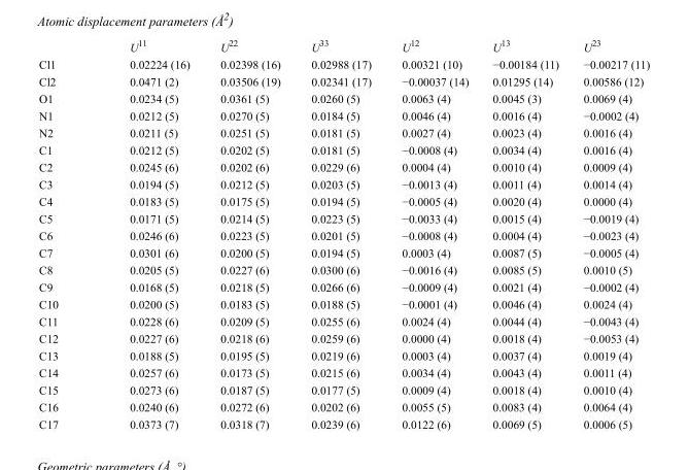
<table><thead><tr><td></td><td>U<sup>11</sup></td><td>U<sup>22</sup></td><td>U<sup>33</sup></td><td>U<sup>12</sup></td><td>U<sup>13</sup></td><td>U<sup>23</sup></td></tr></thead><tbody><tr><td>Cl1</td><td>0.02224 (16)</td><td>0.02398 (16)</td><td>0.02988 (17)</td><td>0.00321 (10)</td><td>−0.00184 (11)</td><td>−0.00217 (11)</td></tr><tr><td>Cl2</td><td>0.0471 (2)</td><td>0.03506 (19)</td><td>0.02341 (17)</td><td>−0.00037 (14)</td><td>0.01295 (14)</td><td>0.00586 (12)</td></tr><tr><td>O1</td><td>0.0234 (5)</td><td>0.0361 (5)</td><td>0.0260 (5)</td><td>0.0063 (4)</td><td>0.0045 (3)</td><td>0.0069 (4)</td></tr><tr><td>N1</td><td>0.0212 (5)</td><td>0.0270 (5)</td><td>0.0184 (5)</td><td>0.0046 (4)</td><td>0.0016 (4)</td><td>−0.0002 (4)</td></tr><tr><td>N2</td><td>0.0211 (5)</td><td>0.0251 (5)</td><td>0.0181 (5)</td><td>0.0027 (4)</td><td>0.0023 (4)</td><td>0.0016 (4)</td></tr><tr><td>C1</td><td>0.0212 (5)</td><td>0.0202 (5)</td><td>0.0181 (5)</td><td>−0.0008 (4)</td><td>0.0034 (4)</td><td>0.0016 (4)</td></tr><tr><td>C2</td><td>0.0245 (6)</td><td>0.0202 (6)</td><td>0.0229 (6)</td><td>0.0004 (4)</td><td>0.0010 (4)</td><td>0.0009 (4)</td></tr><tr><td>C3</td><td>0.0194 (5)</td><td>0.0212 (5)</td><td>0.0203 (5)</td><td>−0.0013 (4)</td><td>0.0011 (4)</td><td>0.0014 (4)</td></tr><tr><td>C4</td><td>0.0183 (5)</td><td>0.0175 (5)</td><td>0.0194 (5)</td><td>−0.0005 (4)</td><td>0.0020 (4)</td><td>0.0000 (4)</td></tr><tr><td>C5</td><td>0.0171 (5)</td><td>0.0214 (5)</td><td>0.0223 (5)</td><td>−0.0033 (4)</td><td>0.0015 (4)</td><td>−0.0019 (4)</td></tr><tr><td>C6</td><td>0.0246 (6)</td><td>0.0223 (5)</td><td>0.0201 (5)</td><td>−0.0008 (4)</td><td>0.0004 (4)</td><td>−0.0023 (4)</td></tr><tr><td>C7</td><td>0.0301 (6)</td><td>0.0200 (5)</td><td>0.0194 (5)</td><td>0.0003 (4)</td><td>0.0087 (5)</td><td>−0.0005 (4)</td></tr><tr><td>C8</td><td>0.0205 (5)</td><td>0.0227 (6)</td><td>0.0300 (6)</td><td>−0.0016 (4)</td><td>0.0085 (5)</td><td>0.0010 (5)</td></tr><tr><td>C9</td><td>0.0168 (5)</td><td>0.0218 (5)</td><td>0.0266 (6)</td><td>−0.0009 (4)</td><td>0.0021 (4)</td><td>−0.0002 (4)</td></tr><tr><td>C10</td><td>0.0200 (5)</td><td>0.0183 (5)</td><td>0.0188 (5)</td><td>−0.0001 (4)</td><td>0.0046 (4)</td><td>0.0024 (4)</td></tr><tr><td>C11</td><td>0.0228 (6)</td><td>0.0209 (5)</td><td>0.0255 (6)</td><td>0.0024 (4)</td><td>0.0044 (4)</td><td>−0.0043 (4)</td></tr><tr><td>C12</td><td>0.0227 (6)</td><td>0.0218 (6)</td><td>0.0259 (6)</td><td>0.0000 (4)</td><td>0.0018 (4)</td><td>−0.0053 (4)</td></tr><tr><td>C13</td><td>0.0188 (5)</td><td>0.0195 (5)</td><td>0.0219 (6)</td><td>0.0003 (4)</td><td>0.0037 (4)</td><td>0.0019 (4)</td></tr><tr><td>C14</td><td>0.0257 (6)</td><td>0.0173 (5)</td><td>0.0215 (6)</td><td>0.0034 (4)</td><td>0.0043 (4)</td><td>0.0011 (4)</td></tr><tr><td>C15</td><td>0.0273 (6)</td><td>0.0187 (5)</td><td>0.0177 (5)</td><td>0.0009 (4)</td><td>0.0018 (4)</td><td>0.0010 (4)</td></tr><tr><td>C16</td><td>0.0240 (6)</td><td>0.0272 (6)</td><td>0.0202 (6)</td><td>0.0055 (5)</td><td>0.0083 (4)</td><td>0.0064 (4)</td></tr><tr><td>C17</td><td>0.0373 (7)</td><td>0.0318 (7)</td><td>0.0239 (6)</td><td>0.0122 (6)</td><td>0.0069 (5)</td><td>0.0006 (5)</td></tr></tbody></table>